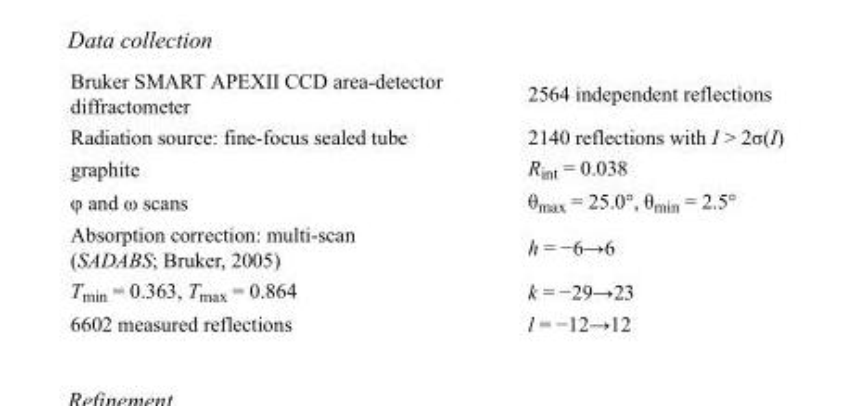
<table><tbody><tr><td>Bruker SMART APEXII CCD area-detector diffractometer</td><td>2564 independent reflections</td></tr><tr><td>Radiation source: fine-focus sealed tube</td><td>2140 reflections with I &gt; 2σ(I)</td></tr><tr><td>graphite</td><td>R<sub>int</sub> = 0.038</td></tr><tr><td>φ and ω scans</td><td>θ<sub>max</sub> = 25.0°, θ<sub>min</sub> = 2.5°</td></tr><tr><td>Absorption correction: multi-scan (SADABS; Bruker, 2005)</td><td>h = −6→6</td></tr><tr><td>T<sub>min</sub> = 0.363, T<sub>max</sub> = 0.864</td><td>k = −29→23</td></tr><tr><td>6602 measured reflections</td><td>l = −12→12</td></tr></tbody></table>